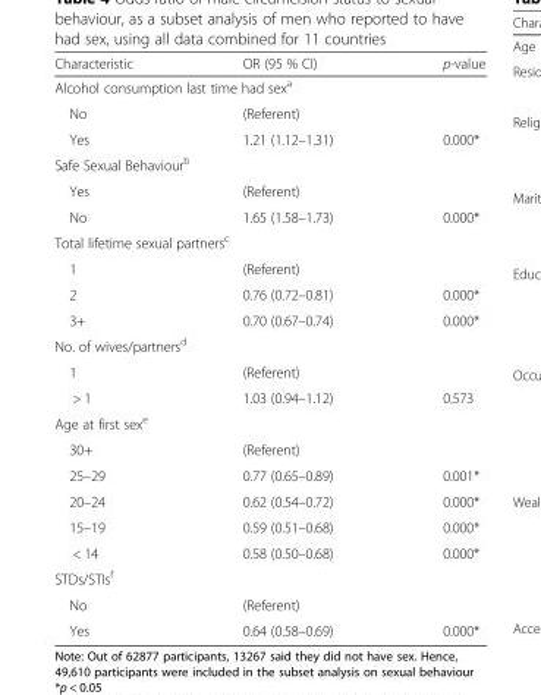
<table><thead><tr><td>Characteristic</td><td>OR (95 % CI)</td><td>p-value</td></tr></thead><tbody><tr><td colspan="3">Alcohol consumption last time had sex<sup>a</sup></td></tr><tr><td>No</td><td>(Referent)</td><td></td></tr><tr><td>Yes</td><td>1.21 (1.12–1.31)</td><td>0.000*</td></tr><tr><td colspan="3">Safe Sexual Behaviour<sup>b</sup></td></tr><tr><td>Yes</td><td>(Referent)</td><td></td></tr><tr><td>No</td><td>1.65 (1.58–1.73)</td><td>0.000*</td></tr><tr><td colspan="3">Total lifetime sexual partners<sup>c</sup></td></tr><tr><td>1</td><td>(Referent)</td><td></td></tr><tr><td>2</td><td>0.76 (0.72–0.81)</td><td>0.000*</td></tr><tr><td>3+</td><td>0.70 (0.67–0.74)</td><td>0.000*</td></tr><tr><td colspan="3">No. of wives/partners<sup>d</sup></td></tr><tr><td>1</td><td>(Referent)</td><td></td></tr><tr><td>&gt; 1</td><td>1.03 (0.94–1.12)</td><td>0.573</td></tr><tr><td colspan="3">Age at first sex<sup>e</sup></td></tr><tr><td>30+</td><td>(Referent)</td><td></td></tr><tr><td>25–29</td><td>0.77 (0.65–0.89)</td><td>0.001*</td></tr><tr><td>20–24</td><td>0.62 (0.54–0.72)</td><td>0.000*</td></tr><tr><td>15–19</td><td>0.59 (0.51–0.68)</td><td>0.000*</td></tr><tr><td>&lt; 14</td><td>0.58 (0.50–0.68)</td><td>0.000*</td></tr><tr><td colspan="3">STDs/STIs<sup>f</sup></td></tr><tr><td>No</td><td>(Referent)</td><td></td></tr><tr><td>Yes</td><td>0.64 (0.58–0.69)</td><td>0.000*</td></tr></tbody></table>